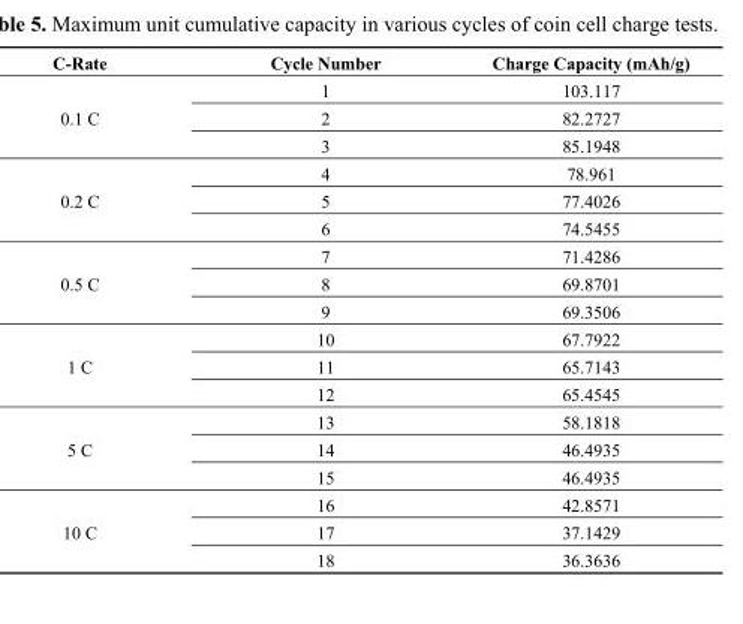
<table><thead><tr><td>C-Rate</td><td>Cycle Number</td><td>Charge Capacity (mAh/g)</td></tr></thead><tbody><tr><td rowspan="3">0.1 C</td><td>1</td><td>103.117</td></tr><tr><td>2</td><td>82.2727</td></tr><tr><td>3</td><td>85.1948</td></tr><tr><td rowspan="3">0.2 C</td><td>4</td><td>78.961</td></tr><tr><td>5</td><td>77.4026</td></tr><tr><td>6</td><td>74.5455</td></tr><tr><td rowspan="3">0.5 C</td><td>7</td><td>71.4286</td></tr><tr><td>8</td><td>69.8701</td></tr><tr><td>9</td><td>69.3506</td></tr><tr><td rowspan="3">1 C</td><td>10</td><td>67.7922</td></tr><tr><td>11</td><td>65.7143</td></tr><tr><td>12</td><td>65.4545</td></tr><tr><td rowspan="3">5 C</td><td>13</td><td>58.1818</td></tr><tr><td>14</td><td>46.4935</td></tr><tr><td>15</td><td>46.4935</td></tr><tr><td rowspan="3">10 C</td><td>16</td><td>42.8571</td></tr><tr><td>17</td><td>37.1429</td></tr><tr><td>18</td><td>36.3636</td></tr></tbody></table>